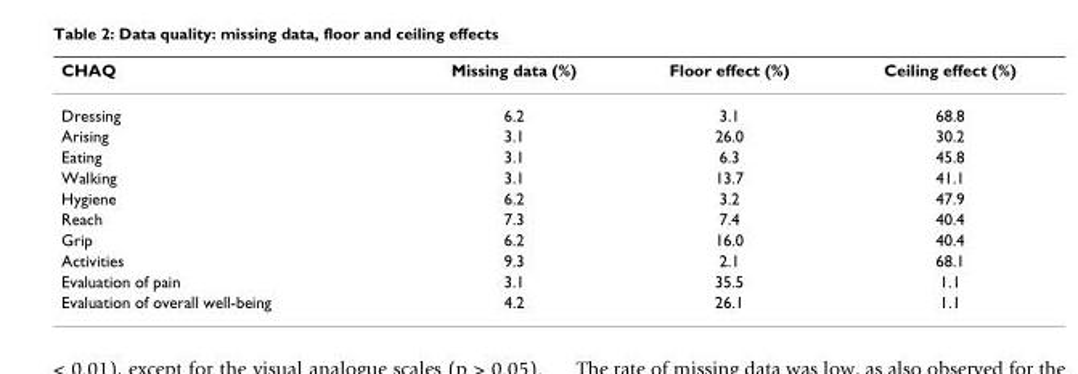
<table><thead><tr><td>CHAQ</td><td>Missing data (%)</td><td>Floor effect (%)</td><td>Ceiling effect (%)</td></tr></thead><tbody><tr><td>Dressing</td><td>6.2</td><td>3.1</td><td>68.8</td></tr><tr><td>Arising</td><td>3.1</td><td>26.0</td><td>30.2</td></tr><tr><td>Eating</td><td>3.1</td><td>6.3</td><td>45.8</td></tr><tr><td>Walking</td><td>3.1</td><td>13.7</td><td>41.1</td></tr><tr><td>Hygiene</td><td>6.2</td><td>3.2</td><td>47.9</td></tr><tr><td>Reach</td><td>7.3</td><td>7.4</td><td>40.4</td></tr><tr><td>Grip</td><td>6.2</td><td>16.0</td><td>40.4</td></tr><tr><td>Activities</td><td>9.3</td><td>2.1</td><td>68.1</td></tr><tr><td>Evaluation of pain</td><td>3.1</td><td>35.5</td><td>1.1</td></tr><tr><td>Evaluation of overall well-being</td><td>4.2</td><td>26.1</td><td>1.1</td></tr></tbody></table>